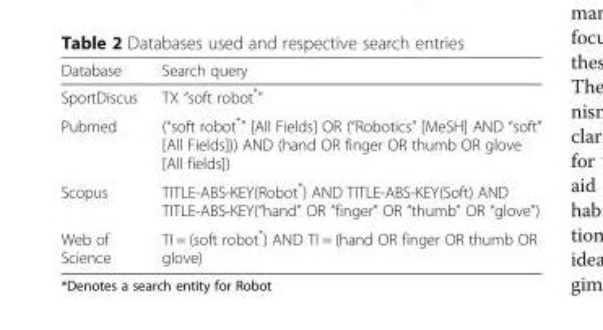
<table><thead><tr><td>Database</td><td>Search query</td></tr></thead><tbody><tr><td>SportDiscus</td><td>TX “soft robot*”</td></tr><tr><td>Pubmed</td><td>(“soft robot*” [All Fields] OR (“Robotics” [MeSH] AND “soft” [All Fields])) AND (hand OR finger OR thumb OR glove [All fields])</td></tr><tr><td>Scopus</td><td>TITLE-ABS-KEY(Robot*) AND TITLE-ABS-KEY(Soft) AND TITLE-ABS-KEY(“hand” OR “finger” OR “thumb” OR “glove”)</td></tr><tr><td>Web of Science</td><td>TI = (soft robot*) AND TI = (hand OR finger OR thumb OR glove)</td></tr></tbody></table>